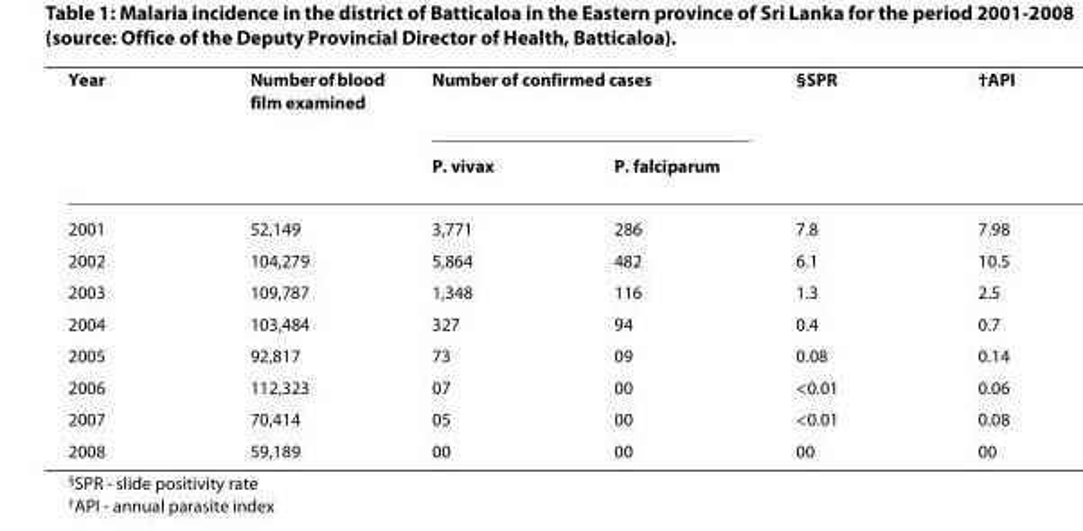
<table><thead><tr><td rowspan="2">Year</td><td rowspan="2">Number of blood film examined</td><td colspan="2">Number of confirmed cases</td><td rowspan="2"><sup>§</sup>SPR</td><td rowspan="2"><sup>†</sup>API</td></tr><tr><td>P. vivax</td><td>P. falciparum</td></tr></thead><tbody><tr><td>2001</td><td>52,149</td><td>3,771</td><td>286</td><td>7.8</td><td>7.98</td></tr><tr><td>2002</td><td>104,279</td><td>5,864</td><td>482</td><td>6.1</td><td>10.5</td></tr><tr><td>2003</td><td>109,787</td><td>1,348</td><td>116</td><td>1.3</td><td>2.5</td></tr><tr><td>2004</td><td>103,484</td><td>327</td><td>94</td><td>0.4</td><td>0.7</td></tr><tr><td>2005</td><td>92,817</td><td>73</td><td>09</td><td>0.08</td><td>0.14</td></tr><tr><td>2006</td><td>112,323</td><td>07</td><td>00</td><td>&lt;0.01</td><td>0.06</td></tr><tr><td>2007</td><td>70,414</td><td>05</td><td>00</td><td>&lt;0.01</td><td>0.08</td></tr><tr><td>2008</td><td>59,189</td><td>00</td><td>00</td><td>00</td><td>00</td></tr></tbody></table>